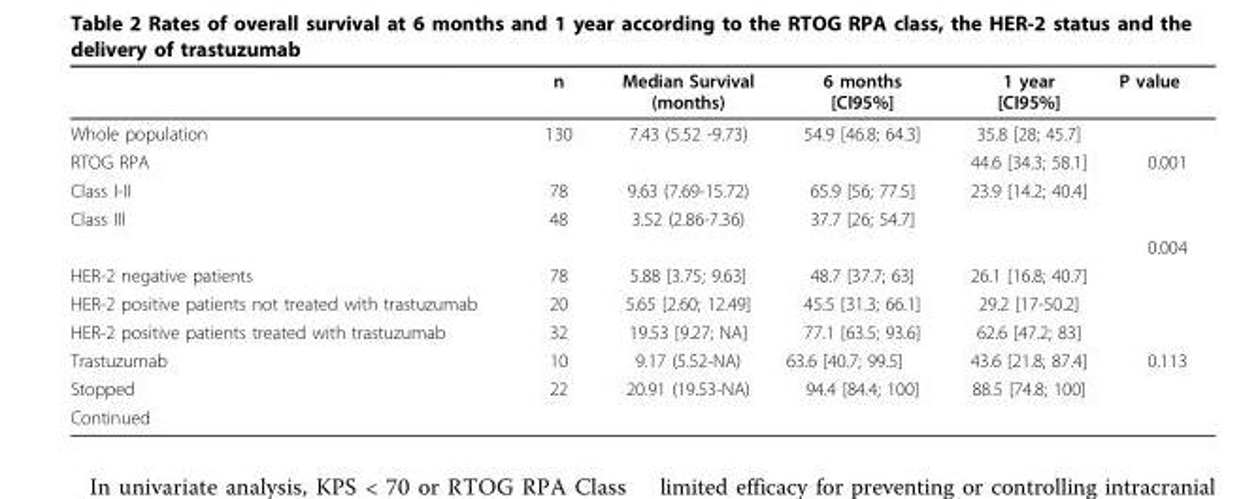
<table><thead><tr><td></td><td>n</td><td>Median Survival (months)</td><td>6 months [CI95%]</td><td>1 year [CI95%]</td><td>P value</td></tr></thead><tbody><tr><td>Whole population</td><td>130</td><td>7.43 (5.52 -9.73)</td><td>54.9 [46.8; 64.3]</td><td>35.8 [28; 45.7]</td><td></td></tr><tr><td>RTOG RPA</td><td></td><td></td><td></td><td>44.6 [34.3; 58.1]</td><td>0.001</td></tr><tr><td>Class I-II</td><td>78</td><td>9.63 (7.69-15.72)</td><td>65.9 [56; 77.5]</td><td>23.9 [14.2; 40.4]</td><td></td></tr><tr><td rowspan="2">Class III</td><td>48</td><td>3.52 (2.86-7.36)</td><td>37.7 [26; 54.7]</td><td></td><td></td></tr><tr><td></td><td></td><td></td><td></td><td>0.004</td></tr><tr><td>HER-2 negative patients</td><td>78</td><td>5.88 [3.75; 9.63]</td><td>48.7 [37.7; 63]</td><td>26.1 [16.8; 40.7]</td><td></td></tr><tr><td>HER-2 positive patients not treated with trastuzumab</td><td>20</td><td>5.65 [2.60; 12.49]</td><td>45.5 [31.3; 66.1]</td><td>29.2 [17-50.2]</td><td></td></tr><tr><td>HER-2 positive patients treated with trastuzumab</td><td>32</td><td>19.53 [9.27; NA]</td><td>77.1 [63.5; 93.6]</td><td>62.6 [47.2; 83]</td><td></td></tr><tr><td>Trastuzumab</td><td>10</td><td>9.17 (5.52-NA)</td><td>63.6 [40.7; 99.5]</td><td>43.6 [21.8; 87.4]</td><td>0.113</td></tr><tr><td>Stopped</td><td>22</td><td>20.91 (19.53-NA)</td><td>94.4 [84.4; 100]</td><td>88.5 [74.8; 100]</td><td></td></tr><tr><td>Continued</td><td></td><td></td><td></td><td></td><td></td></tr></tbody></table>